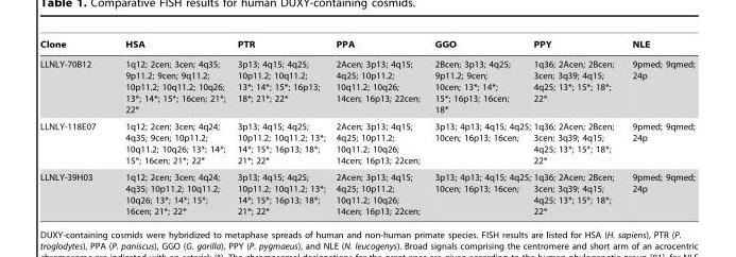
<table><thead><tr><td>Clone</td><td>HSA</td><td>PTR</td><td>PPA</td><td>GGO</td><td>PPY</td><td>NLE</td></tr></thead><tbody><tr><td>LLNLY-70B12</td><td>1q12; 2cen; 3cen; 4q35; 9p11.2; 9cen; 9q11.2; 10p11.2; 10q11.2; 10q26; 13*; 14*; 15*; 16cen; 21*; 22*</td><td>3p13; 4q15; 4q25; 10p11.2; 10q11.2; 13*; 14*; 15*; 16p13; 18*; 21*; 22*</td><td>2Acen; 3p13; 4q15; 4q25; 10p11.2; 10q11.2; 10q26; 14cen; 16p13; 22cen;</td><td>2Bcen; 3p13; 4q25; 9p11.2; 9cen; 10cen; 13*; 14*; 15*; 16p13; 16cen; 18*</td><td>1q36; 2Acen; 2Bcen; 3cen; 3q39; 4q15; 4q25; 13*; 15*; 18*; 22*</td><td>9pmed; 9qmed; 24p</td></tr><tr><td>LLNLY-118E07</td><td>1q12; 2cen; 3cen; 4q24; 4q35; 9cen; 10p11.2; 10q11.2; 10q26; 13*; 14*; 15*; 16cen; 21*; 22*</td><td>3p13; 4q15; 4q25; 10p11.2; 10q11.2; 13*; 14*; 15*; 16p13; 18*; 21*; 22*</td><td>2Acen; 3p13; 4q15; 4q25; 10p11.2; 10q11.2; 10q26; 14cen; 16p13; 22cen;</td><td>3p13; 4p13; 4q15; 4q25; 10cen; 16p13; 16cen;</td><td>1q36; 2Acen; 2Bcen; 3cen; 3q39; 4q15; 4q25; 13*; 15*; 18*; 22*</td><td>9pmed; 9qmed; 24p</td></tr><tr><td>LLNLY-39H03</td><td>1q12; 2cen; 3cen; 4q24; 4q35; 10p11.2; 10q11.2; 10q26; 13*; 14*; 15*; 16cen; 21*; 22*</td><td>3p13; 4q15; 4q25; 10p11.2; 10q11.2; 13*; 14*; 15*; 16p13; 18*; 21*; 22*</td><td>2Acen; 3p13; 4q15; 4q25; 10p11.2; 10q11.2; 10q26; 14cen; 16p13; 22cen;</td><td>3p13; 4p13; 4q15; 4q25; 10cen; 16p13; 16cen;</td><td>1q36; 2Acen; 2Bcen; 3cen; 3q39; 4q15; 4q25; 13*; 15*; 18*; 22*</td><td>9pmed; 9qmed; 24p</td></tr></tbody></table>